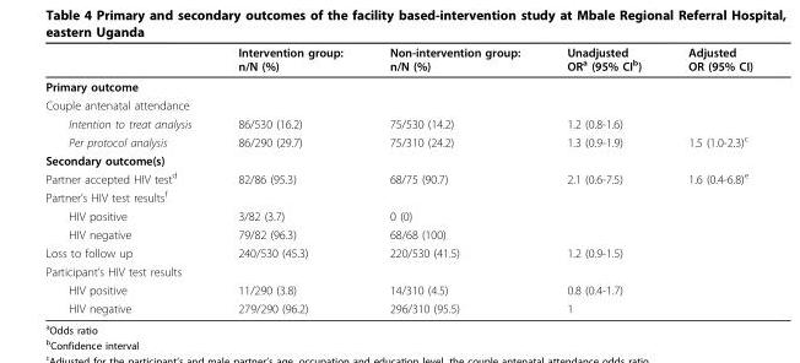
<table><thead><tr><td></td><td>Intervention group: n/N (%)</td><td>Non-intervention group: n/N (%)</td><td>Unadjusted OR<sup>a</sup> (95% CI<sup>b</sup>)</td><td>Adjusted OR (95% CI)</td></tr></thead><tbody><tr><td colspan="5">Primary outcome</td></tr><tr><td colspan="5">Couple antenatal attendance</td></tr><tr><td>Intention to treat analysis</td><td>86/530 (16.2)</td><td>75/530 (14.2)</td><td>1.2 (0.8-1.6)</td><td></td></tr><tr><td>Per protocol analysis</td><td>86/290 (29.7)</td><td>75/310 (24.2)</td><td>1.3 (0.9-1.9)</td><td>1.5 (1.0-2.3)<sup>c</sup></td></tr><tr><td colspan="5">Secondary outcome(s)</td></tr><tr><td>Partner accepted HIV test<sup>d</sup></td><td>82/86 (95.3)</td><td>68/75 (90.7)</td><td>2.1 (0.6-7.5)</td><td>1.6 (0.4-6.8)<sup>e</sup></td></tr><tr><td colspan="5">Partner’s HIV test results<sup>f</sup></td></tr><tr><td>HIV positive</td><td>3/82 (3.7)</td><td>0 (0)</td><td></td><td></td></tr><tr><td>HIV negative</td><td>79/82 (96.3)</td><td>68/68 (100)</td><td></td><td></td></tr><tr><td>Loss to follow up</td><td>240/530 (45.3)</td><td>220/530 (41.5)</td><td>1.2 (0.9-1.5)</td><td></td></tr><tr><td colspan="5">Participant’s HIV test results</td></tr><tr><td>HIV positive</td><td>11/290 (3.8)</td><td>14/310 (4.5)</td><td>0.8 (0.4-1.7)</td><td></td></tr><tr><td>HIV negative</td><td>279/290 (96.2)</td><td>296/310 (95.5)</td><td>1</td><td></td></tr></tbody></table>